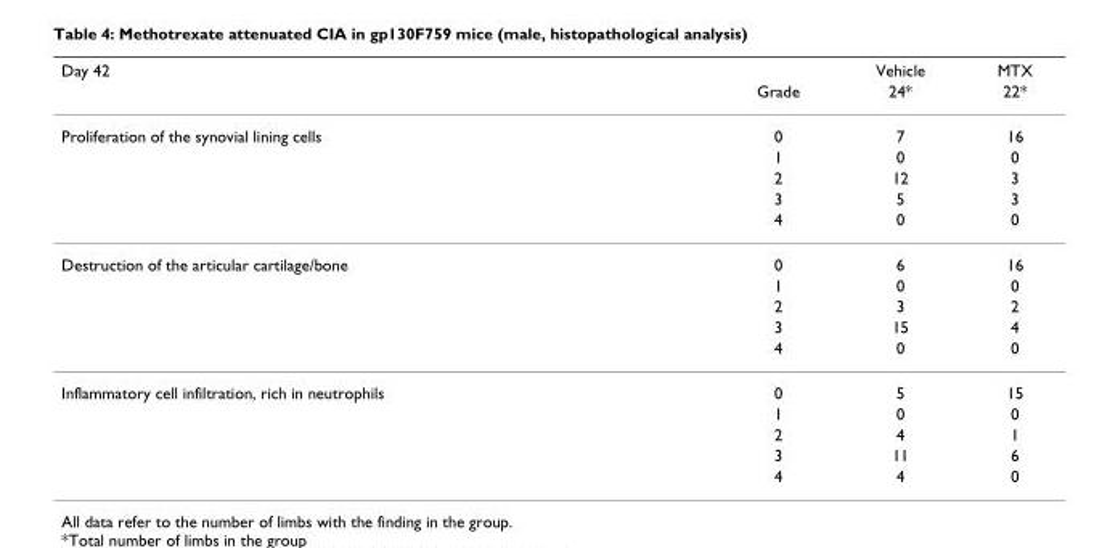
<table><thead><tr><td rowspan="2">Day 42</td><td rowspan="2">Grade</td><td rowspan="2">Vehicle 24*</td><td rowspan="2">MTX 22*</td></tr><tr></tr></thead><tbody><tr><td rowspan="5">Proliferation of the synovial lining cells</td><td>0</td><td>7</td><td>16</td></tr><tr><td>1</td><td>0</td><td>0</td></tr><tr><td>2</td><td>12</td><td>3</td></tr><tr><td>3</td><td>5</td><td>3</td></tr><tr><td>4</td><td>0</td><td>0</td></tr><tr><td rowspan="5">Destruction of the articular cartilage/bone</td><td>0</td><td>6</td><td>16</td></tr><tr><td>1</td><td>0</td><td>0</td></tr><tr><td>2</td><td>3</td><td>2</td></tr><tr><td>3</td><td>15</td><td>4</td></tr><tr><td>4</td><td>0</td><td>0</td></tr><tr><td rowspan="5">Inflammatory cell infiltration, rich in neutrophils</td><td>0</td><td>5</td><td>15</td></tr><tr><td>1</td><td>0</td><td>0</td></tr><tr><td>2</td><td>4</td><td>1</td></tr><tr><td>3</td><td>11</td><td>6</td></tr><tr><td>4</td><td>4</td><td>0</td></tr></tbody></table>